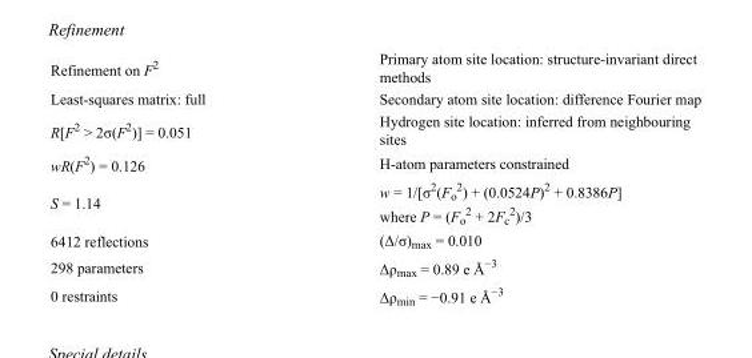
<table><tbody><tr><td>Refinement on F<sup>2</sup></td><td>Primary atom site location: structure-invariant direct methods</td></tr><tr><td>Least-squares matrix: full</td><td>Secondary atom site location: difference Fourier map</td></tr><tr><td>R[F<sup>2</sup> &gt; 2σ(F<sup>2</sup>)] = 0.051</td><td>Hydrogen site location: inferred from neighbouring sites</td></tr><tr><td>wR(F<sup>2</sup>) = 0.126</td><td>H-atom parameters constrained</td></tr><tr><td>S = 1.14</td><td>w = 1/[σ<sup>2</sup>(F<sub>o</sub> <sup>2</sup>) + (0.0524P)<sup>2</sup> + 0.8386P] where P = (F<sub>o</sub> <sup>2</sup> + 2F<sub>c</sub> <sup>2</sup>)/3</td></tr><tr><td>6412 reflections</td><td>(Δ/σ)<sub>max</sub> = 0.010</td></tr><tr><td>298 parameters</td><td>Δρ<sub>max</sub> = 0.89 e Å<sup>−3</sup></td></tr><tr><td>0 restraints</td><td>Δρ<sub>min</sub> = −0.91 e Å<sup>−3</sup></td></tr></tbody></table>